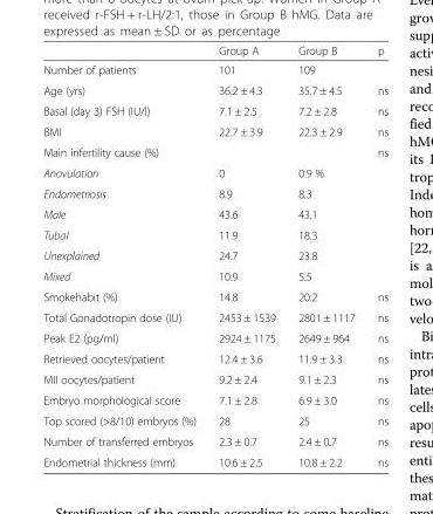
<table><thead><tr><td></td><td>Group A</td><td>Group B</td><td>p</td></tr></thead><tbody><tr><td>Number of patients</td><td>101</td><td>109</td><td></td></tr><tr><td>Age (yrs)</td><td>36.2 ± 4.3</td><td>35.7 ± 4.5</td><td>ns</td></tr><tr><td>Basal (day 3) FSH (IU/l)</td><td>7.1 ± 2.5</td><td>7.2 ± 2.8</td><td>ns</td></tr><tr><td>BMI</td><td>22.7 ± 3.9</td><td>22.3 ± 2.9</td><td>ns</td></tr><tr><td>Main infertility cause (%)</td><td></td><td></td><td>ns</td></tr><tr><td>Anovulation</td><td>0</td><td>0.9 %</td><td></td></tr><tr><td>Endometriosis</td><td>8.9</td><td>8.3</td><td></td></tr><tr><td>Male</td><td>43.6</td><td>43.1</td><td></td></tr><tr><td>Tubal</td><td>11.9</td><td>18.3</td><td></td></tr><tr><td>Unexplained</td><td>24.7</td><td>23.8</td><td></td></tr><tr><td>Mixed</td><td>10.9</td><td>5.5</td><td></td></tr><tr><td>Smokehabit (%)</td><td>14.8</td><td>20.2</td><td>ns</td></tr><tr><td>Total Gonadotropin dose (IU)</td><td>2453 ± 1539</td><td>2801 ± 1117</td><td>ns</td></tr><tr><td>Peak E2 (pg/ml)</td><td>2924 ± 1175</td><td>2649 ± 964</td><td>ns</td></tr><tr><td>Retrieved oocytes/patient</td><td>12.4 ± 3.6</td><td>11.9 ± 3.3</td><td>ns</td></tr><tr><td>MII oocytes/patient</td><td>9.2 ± 2.4</td><td>9.1 ± 2.3</td><td>ns</td></tr><tr><td>Embryo morphological score</td><td>7.1 ± 2.8</td><td>6.9 ± 3.0</td><td>ns</td></tr><tr><td>Top scored (&gt;8/10) embryos (%)</td><td>28</td><td>25</td><td>ns</td></tr><tr><td>Number of transferred embryos</td><td>2.3 ± 0.7</td><td>2.4 ± 0.7</td><td>ns</td></tr><tr><td>Endometrial thickness (mm)</td><td>10.6 ± 2.5</td><td>10.8 ± 2.2</td><td>ns</td></tr></tbody></table>